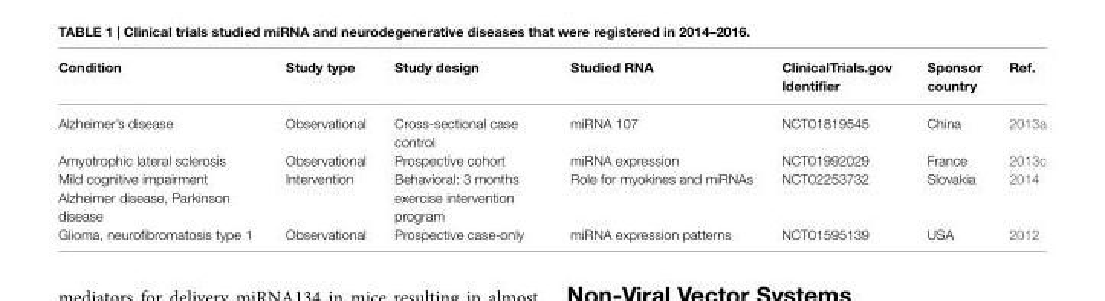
<table><thead><tr><td>Condition</td><td>Study type</td><td>Study design</td><td>Studied RNA</td><td>ClinicalTrials.gov Identifier</td><td>Sponsor country</td><td>Ref.</td></tr></thead><tbody><tr><td>Alzheimer’s disease</td><td>Observational</td><td>Cross-sectional case control</td><td>miRNA 107</td><td>NCT01819545</td><td>China</td><td>2013a</td></tr><tr><td>Amyotrophic lateral sclerosis</td><td>Observational</td><td>Prospective cohort</td><td>miRNA expression</td><td>NCT01992029</td><td>France</td><td>2013c</td></tr><tr><td>Mild cognitive impairment Alzheimer disease, Parkinson disease</td><td>Intervention</td><td>Behavioral: 3 months exercise intervention program</td><td>Role for myokines and miRNAs</td><td>NCT02253732</td><td>Slovakia</td><td>2014</td></tr><tr><td>Glioma, neurofibromatosis type 1</td><td>Observational</td><td>Prospective case-only</td><td>miRNA expression patterns</td><td>NCT01595139</td><td>USA</td><td>2012</td></tr></tbody></table>